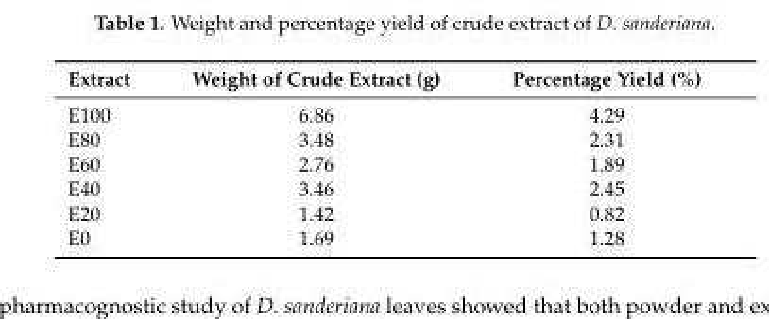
<table><thead><tr><td>Extract</td><td>Weight of Crude Extract (g)</td><td>Percentage Yield (%)</td></tr></thead><tbody><tr><td>E100</td><td>6.86</td><td>4.29</td></tr><tr><td>E80</td><td>3.48</td><td>2.31</td></tr><tr><td>E60</td><td>2.76</td><td>1.89</td></tr><tr><td>E40</td><td>3.46</td><td>2.45</td></tr><tr><td>E20</td><td>1.42</td><td>0.82</td></tr><tr><td>E0</td><td>1.69</td><td>1.28</td></tr></tbody></table>